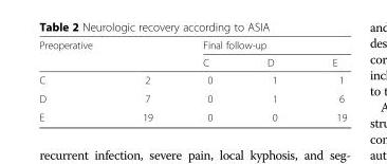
<table><thead><tr><td rowspan="2">Preoperative</td><td rowspan="2"></td><td colspan="3">Final follow-up</td></tr><tr><td>C</td><td>D</td><td>E</td></tr></thead><tbody><tr><td>C</td><td>2</td><td>0</td><td>1</td><td>1</td></tr><tr><td>D</td><td>7</td><td>0</td><td>1</td><td>6</td></tr><tr><td>E</td><td>19</td><td>0</td><td>0</td><td>19</td></tr></tbody></table>